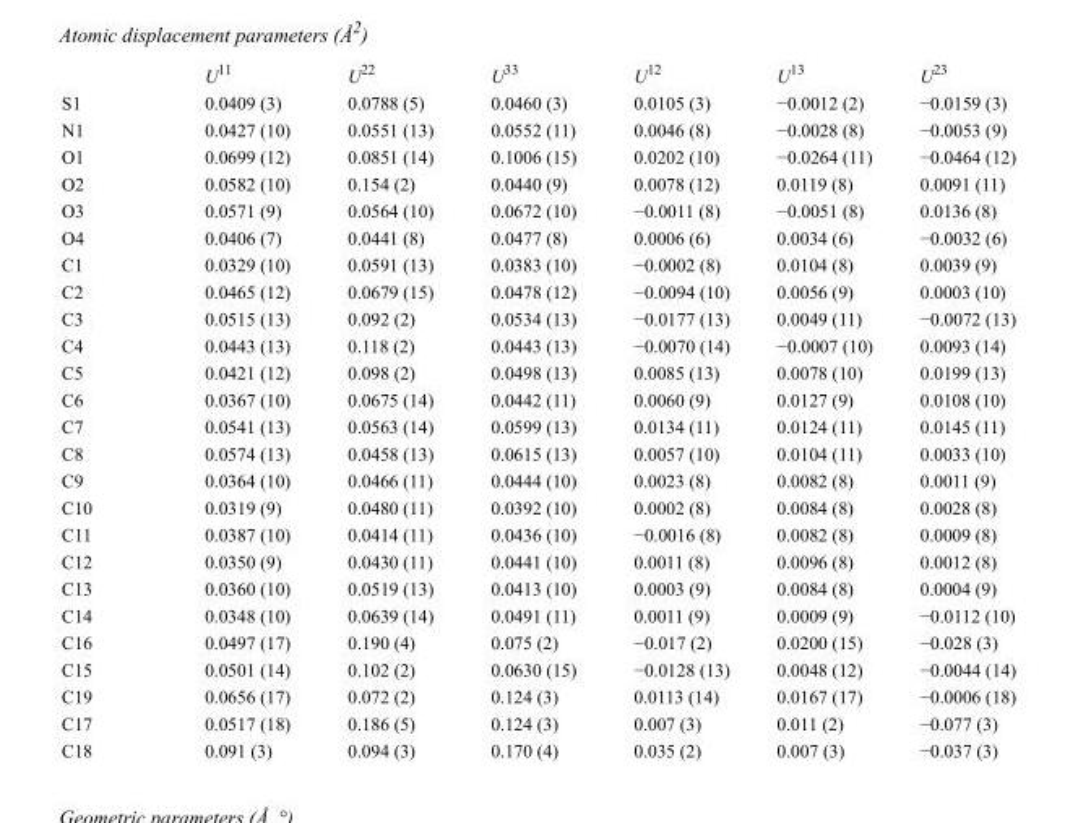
<table><thead><tr><td></td><td>U<sup>11</sup></td><td>U<sup>22</sup></td><td>U<sup>33</sup></td><td>U<sup>12</sup></td><td>U<sup>13</sup></td><td>U<sup>23</sup></td></tr></thead><tbody><tr><td>S1</td><td>0.0409 (3)</td><td>0.0788 (5)</td><td>0.0460 (3)</td><td>0.0105 (3)</td><td>−0.0012 (2)</td><td>−0.0159 (3)</td></tr><tr><td>N1</td><td>0.0427 (10)</td><td>0.0551 (13)</td><td>0.0552 (11)</td><td>0.0046 (8)</td><td>−0.0028 (8)</td><td>−0.0053 (9)</td></tr><tr><td>O1</td><td>0.0699 (12)</td><td>0.0851 (14)</td><td>0.1006 (15)</td><td>0.0202 (10)</td><td>−0.0264 (11)</td><td>−0.0464 (12)</td></tr><tr><td>O2</td><td>0.0582 (10)</td><td>0.154 (2)</td><td>0.0440 (9)</td><td>0.0078 (12)</td><td>0.0119 (8)</td><td>0.0091 (11)</td></tr><tr><td>O3</td><td>0.0571 (9)</td><td>0.0564 (10)</td><td>0.0672 (10)</td><td>−0.0011 (8)</td><td>−0.0051 (8)</td><td>0.0136 (8)</td></tr><tr><td>O4</td><td>0.0406 (7)</td><td>0.0441 (8)</td><td>0.0477 (8)</td><td>0.0006 (6)</td><td>0.0034 (6)</td><td>−0.0032 (6)</td></tr><tr><td>C1</td><td>0.0329 (10)</td><td>0.0591 (13)</td><td>0.0383 (10)</td><td>−0.0002 (8)</td><td>0.0104 (8)</td><td>0.0039 (9)</td></tr><tr><td>C2</td><td>0.0465 (12)</td><td>0.0679 (15)</td><td>0.0478 (12)</td><td>−0.0094 (10)</td><td>0.0056 (9)</td><td>0.0003 (10)</td></tr><tr><td>C3</td><td>0.0515 (13)</td><td>0.092 (2)</td><td>0.0534 (13)</td><td>−0.0177 (13)</td><td>0.0049 (11)</td><td>−0.0072 (13)</td></tr><tr><td>C4</td><td>0.0443 (13)</td><td>0.118 (2)</td><td>0.0443 (13)</td><td>−0.0070 (14)</td><td>−0.0007 (10)</td><td>0.0093 (14)</td></tr><tr><td>C5</td><td>0.0421 (12)</td><td>0.098 (2)</td><td>0.0498 (13)</td><td>0.0085 (13)</td><td>0.0078 (10)</td><td>0.0199 (13)</td></tr><tr><td>C6</td><td>0.0367 (10)</td><td>0.0675 (14)</td><td>0.0442 (11)</td><td>0.0060 (9)</td><td>0.0127 (9)</td><td>0.0108 (10)</td></tr><tr><td>C7</td><td>0.0541 (13)</td><td>0.0563 (14)</td><td>0.0599 (13)</td><td>0.0134 (11)</td><td>0.0124 (11)</td><td>0.0145 (11)</td></tr><tr><td>C8</td><td>0.0574 (13)</td><td>0.0458 (13)</td><td>0.0615 (13)</td><td>0.0057 (10)</td><td>0.0104 (11)</td><td>0.0033 (10)</td></tr><tr><td>C9</td><td>0.0364 (10)</td><td>0.0466 (11)</td><td>0.0444 (10)</td><td>0.0023 (8)</td><td>0.0082 (8)</td><td>0.0011 (9)</td></tr><tr><td>C10</td><td>0.0319 (9)</td><td>0.0480 (11)</td><td>0.0392 (10)</td><td>0.0002 (8)</td><td>0.0084 (8)</td><td>0.0028 (8)</td></tr><tr><td>C11</td><td>0.0387 (10)</td><td>0.0414 (11)</td><td>0.0436 (10)</td><td>−0.0016 (8)</td><td>0.0082 (8)</td><td>0.0009 (8)</td></tr><tr><td>C12</td><td>0.0350 (9)</td><td>0.0430 (11)</td><td>0.0441 (10)</td><td>0.0011 (8)</td><td>0.0096 (8)</td><td>0.0012 (8)</td></tr><tr><td>C13</td><td>0.0360 (10)</td><td>0.0519 (13)</td><td>0.0413 (10)</td><td>0.0003 (9)</td><td>0.0084 (8)</td><td>0.0004 (9)</td></tr><tr><td>C14</td><td>0.0348 (10)</td><td>0.0639 (14)</td><td>0.0491 (11)</td><td>0.0011 (9)</td><td>0.0009 (9)</td><td>−0.0112 (10)</td></tr><tr><td>C16</td><td>0.0497 (17)</td><td>0.190 (4)</td><td>0.075 (2)</td><td>−0.017 (2)</td><td>0.0200 (15)</td><td>−0.028 (3)</td></tr><tr><td>C15</td><td>0.0501 (14)</td><td>0.102 (2)</td><td>0.0630 (15)</td><td>−0.0128 (13)</td><td>0.0048 (12)</td><td>−0.0044 (14)</td></tr><tr><td>C19</td><td>0.0656 (17)</td><td>0.072 (2)</td><td>0.124 (3)</td><td>0.0113 (14)</td><td>0.0167 (17)</td><td>−0.0006 (18)</td></tr><tr><td>C17</td><td>0.0517 (18)</td><td>0.186 (5)</td><td>0.124 (3)</td><td>0.007 (3)</td><td>0.011 (2)</td><td>−0.077 (3)</td></tr><tr><td>C18</td><td>0.091 (3)</td><td>0.094 (3)</td><td>0.170 (4)</td><td>0.035 (2)</td><td>0.007 (3)</td><td>−0.037 (3)</td></tr></tbody></table>